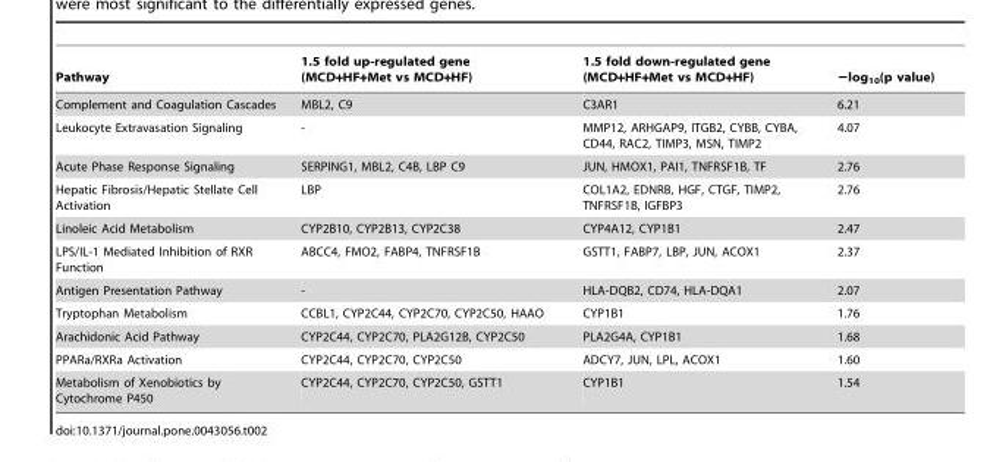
<table><thead><tr><td>Pathway</td><td>1.5 fold up-regulated gene (MCD+HF+Met vs MCD+HF)</td><td>1.5 fold down-regulated gene (MCD+HF+Met vs MCD+HF)</td><td>−log<sub>10</sub>(p value)</td></tr></thead><tbody><tr><td>Complement and Coagulation Cascades</td><td>MBL2, C9</td><td>C3AR1</td><td>6.21</td></tr><tr><td>Leukocyte Extravasation Signaling</td><td>-</td><td>MMP12, ARHGAP9, ITGB2, CYBB, CYBA, CD44, RAC2, TIMP3, MSN, TIMP2</td><td>4.07</td></tr><tr><td>Acute Phase Response Signaling</td><td>SERPING1, MBL2, C4B, LBP C9</td><td>JUN, HMOX1, PAI1, TNFRSF1B, TF</td><td>2.76</td></tr><tr><td>Hepatic Fibrosis/Hepatic Stellate Cell Activation</td><td>LBP</td><td>COL1A2, EDNRB, HGF, CTGF, TIMP2, TNFRSF1B, IGFBP3</td><td>2.76</td></tr><tr><td>Linoleic Acid Metabolism</td><td>CYP2B10, CYP2B13, CYP2C38</td><td>CYP4A12, CYP1B1</td><td>2.47</td></tr><tr><td>LPS/IL-1 Mediated Inhibition of RXR Function</td><td>ABCC4, FMO2, FABP4, TNFRSF1B</td><td>GSTT1, FABP7, LBP, JUN, ACOX1</td><td>2.37</td></tr><tr><td>Antigen Presentation Pathway</td><td>-</td><td>HLA-DQB2, CD74, HLA-DQA1</td><td>2.07</td></tr><tr><td>Tryptophan Metabolism</td><td>CCBL1, CYP2C44, CYP2C70, CYP2C50, HAAO</td><td>CYP1B1</td><td>1.76</td></tr><tr><td>Arachidonic Acid Pathway</td><td>CYP2C44, CYP2C70, PLA2G12B, CYP2C50</td><td>PLA2G4A, CYP1B1</td><td>1.68</td></tr><tr><td>PPARa/RXRa Activation</td><td>CYP2C44, CYP2C70, CYP2C50</td><td>ADCY7, JUN, LPL, ACOX1</td><td>1.60</td></tr><tr><td>Metabolism of Xenobiotics by Cytochrome P450</td><td>CYP2C44, CYP2C70, CYP2C50, GSTT1</td><td>CYP1B1</td><td>1.54</td></tr></tbody></table>